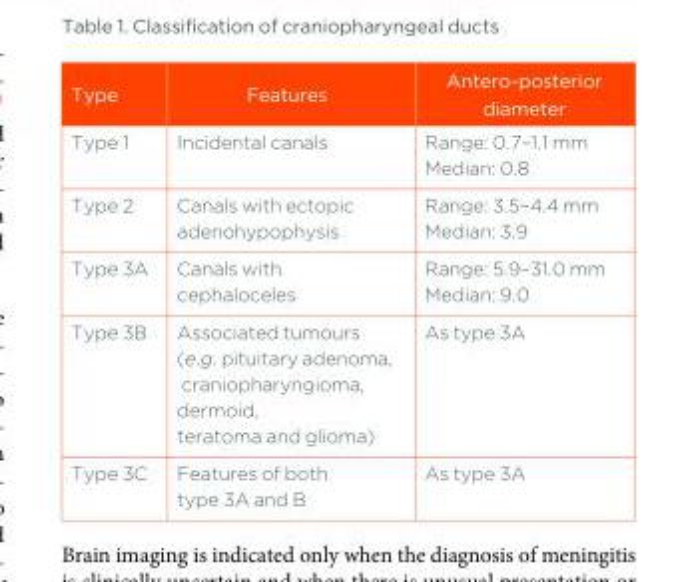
<table><thead><tr><td>Type</td><td>Features</td><td>Antero-posterior diameter</td></tr></thead><tbody><tr><td>Type 1</td><td>Incidental canals</td><td>Range: 0.7–1.1 mm Median: 0.8</td></tr><tr><td>Type 2</td><td>Canals with ectopic adenohypophysis</td><td>Range: 3.5–4.4 mm Median: 3.9</td></tr><tr><td>Type 3A</td><td>Canals with cephaloceles</td><td>Range: 5.9–31.0 mm Median: 9.0</td></tr><tr><td>Type 3B</td><td>Associated tumours (e.g. pituitary adenoma, craniopharyngioma, dermoid, teratoma and glioma)</td><td>As type 3A</td></tr><tr><td>Type 3C</td><td>Features of both type 3A and B</td><td>As type 3A</td></tr></tbody></table>